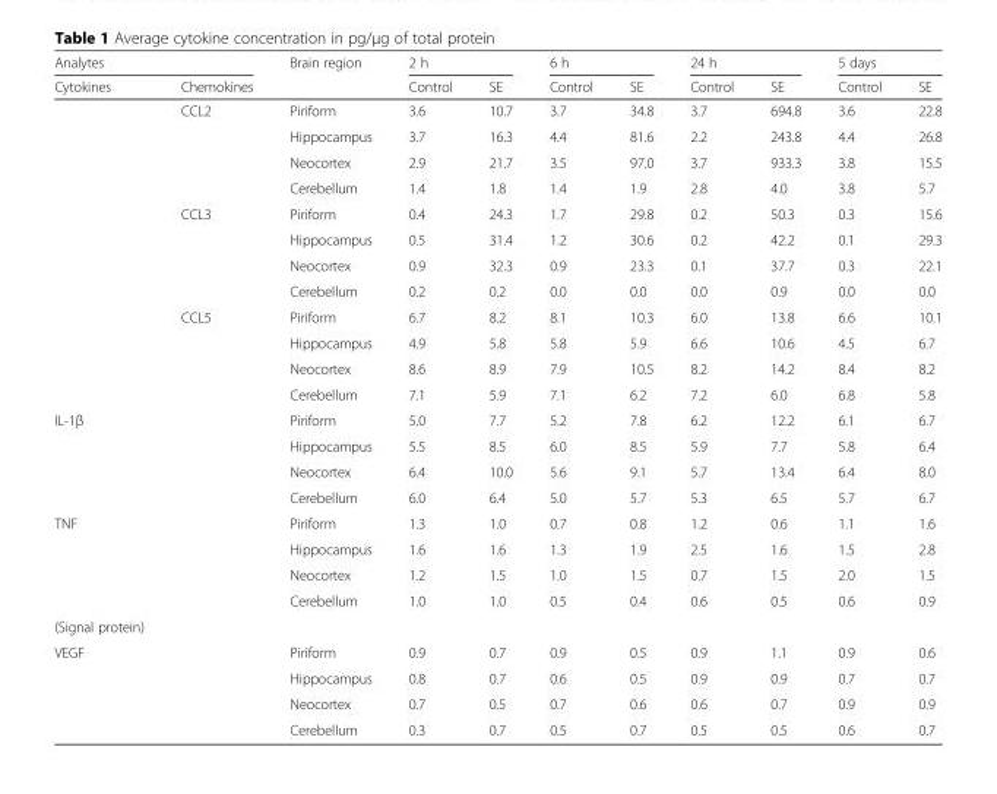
<table><thead><tr><td colspan="2">Analytes</td><td rowspan="2">Brain region</td><td colspan="2">2 h</td><td colspan="2">6 h</td><td colspan="2">24 h</td><td colspan="2">5 days</td></tr><tr><td>Cytokines</td><td>Chemokines</td><td>Control</td><td>SE</td><td>Control</td><td>SE</td><td>Control</td><td>SE</td><td>Control</td><td>SE</td></tr></thead><tbody><tr><td rowspan="12"></td><td rowspan="4">CCL2</td><td>Piriform</td><td>3.6</td><td>10.7</td><td>3.7</td><td>34.8</td><td>3.7</td><td>694.8</td><td>3.6</td><td>22.8</td></tr><tr><td>Hippocampus</td><td>3.7</td><td>16.3</td><td>4.4</td><td>81.6</td><td>2.2</td><td>243.8</td><td>4.4</td><td>26.8</td></tr><tr><td>Neocortex</td><td>2.9</td><td>21.7</td><td>3.5</td><td>97.0</td><td>3.7</td><td>933.3</td><td>3.8</td><td>15.5</td></tr><tr><td>Cerebellum</td><td>1.4</td><td>1.8</td><td>1.4</td><td>1.9</td><td>2.8</td><td>4.0</td><td>3.8</td><td>5.7</td></tr><tr><td rowspan="4">CCL3</td><td>Piriform</td><td>0.4</td><td>24.3</td><td>1.7</td><td>29.8</td><td>0.2</td><td>50.3</td><td>0.3</td><td>15.6</td></tr><tr><td>Hippocampus</td><td>0.5</td><td>31.4</td><td>1.2</td><td>30.6</td><td>0.2</td><td>42.2</td><td>0.1</td><td>29.3</td></tr><tr><td>Neocortex</td><td>0.9</td><td>32.3</td><td>0.9</td><td>23.3</td><td>0.1</td><td>37.7</td><td>0.3</td><td>22.1</td></tr><tr><td>Cerebellum</td><td>0.2</td><td>0.2</td><td>0.0</td><td>0.0</td><td>0.0</td><td>0.9</td><td>0.0</td><td>0.0</td></tr><tr><td rowspan="4">CCL5</td><td>Piriform</td><td>6.7</td><td>8.2</td><td>8.1</td><td>10.3</td><td>6.0</td><td>13.8</td><td>6.6</td><td>10.1</td></tr><tr><td>Hippocampus</td><td>4.9</td><td>5.8</td><td>5.8</td><td>5.9</td><td>6.6</td><td>10.6</td><td>4.5</td><td>6.7</td></tr><tr><td>Neocortex</td><td>8.6</td><td>8.9</td><td>7.9</td><td>10.5</td><td>8.2</td><td>14.2</td><td>8.4</td><td>8.2</td></tr><tr><td>Cerebellum</td><td>7.1</td><td>5.9</td><td>7.1</td><td>6.2</td><td>7.2</td><td>6.0</td><td>6.8</td><td>5.8</td></tr><tr><td rowspan="4">IL-1β</td><td></td><td>Piriform</td><td>5.0</td><td>7.7</td><td>5.2</td><td>7.8</td><td>6.2</td><td>12.2</td><td>6.1</td><td>6.7</td></tr><tr><td></td><td>Hippocampus</td><td>5.5</td><td>8.5</td><td>6.0</td><td>8.5</td><td>5.9</td><td>7.7</td><td>5.8</td><td>6.4</td></tr><tr><td></td><td>Neocortex</td><td>6.4</td><td>10.0</td><td>5.6</td><td>9.1</td><td>5.7</td><td>13.4</td><td>6.4</td><td>8.0</td></tr><tr><td></td><td>Cerebellum</td><td>6.0</td><td>6.4</td><td>5.0</td><td>5.7</td><td>5.3</td><td>6.5</td><td>5.7</td><td>6.7</td></tr><tr><td rowspan="4">TNF</td><td></td><td>Piriform</td><td>1.3</td><td>1.0</td><td>0.7</td><td>0.8</td><td>1.2</td><td>0.6</td><td>1.1</td><td>1.6</td></tr><tr><td></td><td>Hippocampus</td><td>1.6</td><td>1.6</td><td>1.3</td><td>1.9</td><td>2.5</td><td>1.6</td><td>1.5</td><td>2.8</td></tr><tr><td></td><td>Neocortex</td><td>1.2</td><td>1.5</td><td>1.0</td><td>1.5</td><td>0.7</td><td>1.5</td><td>2.0</td><td>1.5</td></tr><tr><td></td><td>Cerebellum</td><td>1.0</td><td>1.0</td><td>0.5</td><td>0.4</td><td>0.6</td><td>0.5</td><td>0.6</td><td>0.9</td></tr><tr><td colspan="11">(Signal protein)</td></tr><tr><td rowspan="4">VEGF</td><td></td><td>Piriform</td><td>0.9</td><td>0.7</td><td>0.9</td><td>0.5</td><td>0.9</td><td>1.1</td><td>0.9</td><td>0.6</td></tr><tr><td></td><td>Hippocampus</td><td>0.8</td><td>0.7</td><td>0.6</td><td>0.5</td><td>0.9</td><td>0.9</td><td>0.7</td><td>0.7</td></tr><tr><td></td><td>Neocortex</td><td>0.7</td><td>0.5</td><td>0.7</td><td>0.6</td><td>0.6</td><td>0.7</td><td>0.9</td><td>0.9</td></tr><tr><td></td><td>Cerebellum</td><td>0.3</td><td>0.7</td><td>0.5</td><td>0.7</td><td>0.5</td><td>0.5</td><td>0.6</td><td>0.7</td></tr></tbody></table>